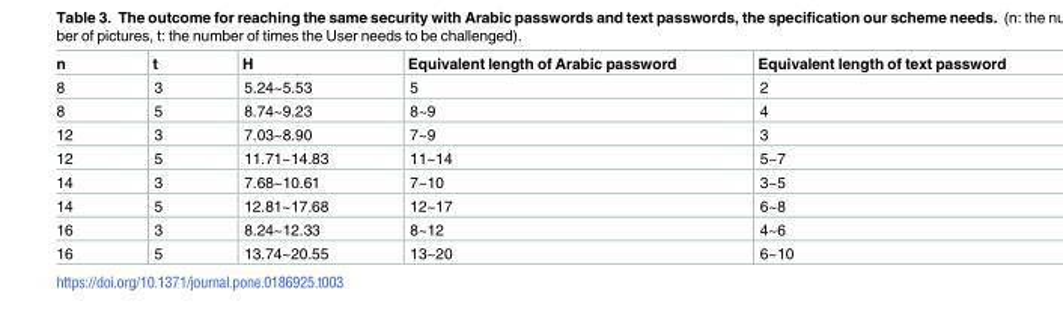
<table><thead><tr><td>n</td><td>t</td><td>H</td><td>Equivalent length of Arabic password</td><td>Equivalent length of text password</td></tr></thead><tbody><tr><td>8</td><td>3</td><td>5.24~5.53</td><td>5</td><td>2</td></tr><tr><td>8</td><td>5</td><td>8.74~9.23</td><td>8~9</td><td>4</td></tr><tr><td>12</td><td>3</td><td>7.03~8.90</td><td>7~9</td><td>3</td></tr><tr><td>12</td><td>5</td><td>11.71~14.83</td><td>11~14</td><td>5~7</td></tr><tr><td>14</td><td>3</td><td>7.68~10.61</td><td>7~10</td><td>3~5</td></tr><tr><td>14</td><td>5</td><td>12.81~17.68</td><td>12~17</td><td>6~8</td></tr><tr><td>16</td><td>3</td><td>8.24~12.33</td><td>8~12</td><td>4~6</td></tr><tr><td>16</td><td>5</td><td>13.74~20.55</td><td>13~20</td><td>6~10</td></tr></tbody></table>